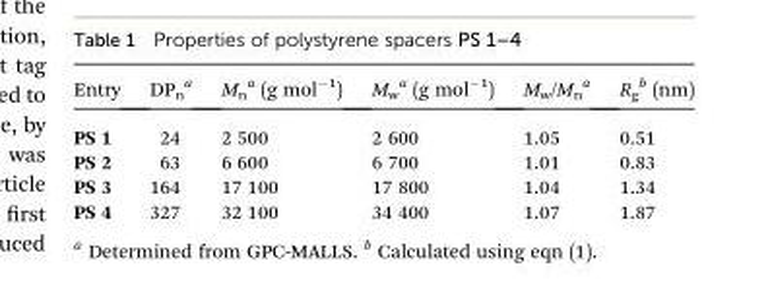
<table><thead><tr><td>Entry</td><td>DP<sub>n</sub> <sup>a</sup></td><td>M<sub>n</sub> <sup>a</sup> (g mol<sup>–1</sup>)</td><td>M<sub>w</sub> <sup>a</sup> (g mol<sup>–1</sup>)</td><td>M<sub>w</sub>/M<sub>n</sub> <sup>a</sup></td><td>R<sub>g</sub> <sup>b</sup> (nm)</td></tr></thead><tbody><tr><td>PS 1</td><td>24</td><td>2 500</td><td>2 600</td><td>1.05</td><td>0.51</td></tr><tr><td>PS 2</td><td>63</td><td>6 600</td><td>6 700</td><td>1.01</td><td>0.83</td></tr><tr><td>PS 3</td><td>164</td><td>17 100</td><td>17 800</td><td>1.04</td><td>1.34</td></tr><tr><td>PS 4</td><td>327</td><td>32 100</td><td>34 400</td><td>1.07</td><td>1.87</td></tr></tbody></table>